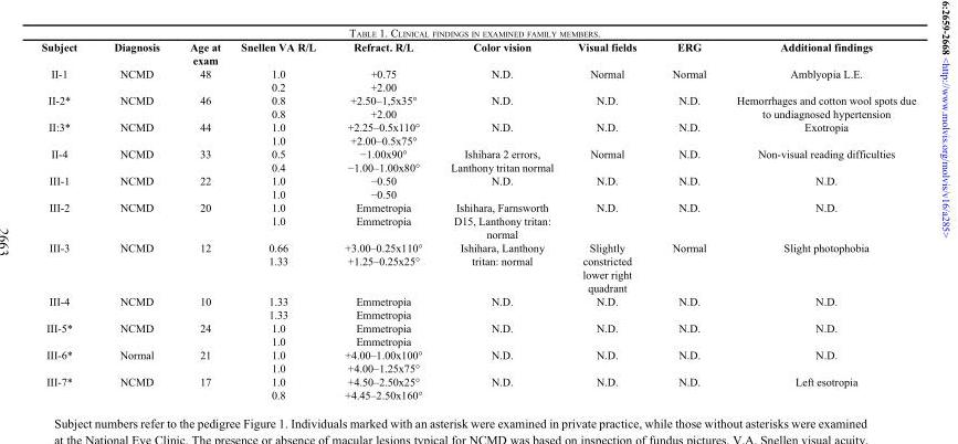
<table><thead><tr><td>Subject</td><td>Diagnosis</td><td>Age at exam</td><td>Snellen VA R/L</td><td>Refract. R/L</td><td>Color vision</td><td>Visual fields</td><td>ERG</td><td>Additional findings</td></tr></thead><tbody><tr><td>II-1</td><td>NCMD</td><td>48</td><td>1.0 0.2</td><td>+0.75 +2.00</td><td>N.D.</td><td>Normal</td><td>Normal</td><td>Amblyopia L.E.</td></tr><tr><td>II-2*</td><td>NCMD</td><td>46</td><td>0.8 0.8</td><td>+2.50–1,5x35° +2.00</td><td>N.D.</td><td>N.D.</td><td>N.D.</td><td>Hemorrhages and cotton wool spots due to undiagnosed hypertension</td></tr><tr><td>II:3*</td><td>NCMD</td><td>44</td><td>1.0 1.0</td><td>+2.25–0.5x110° +2.00–0.5x75°</td><td>N.D.</td><td>N.D.</td><td>N.D.</td><td>Exotropia</td></tr><tr><td>II-4</td><td>NCMD</td><td>33</td><td>0.5 0.4</td><td>−1.00x90° −1.00–1.00x80°</td><td>Ishihara 2 errors, Lanthony tritan normal</td><td>Normal</td><td>N.D.</td><td>Non-visual reading difficulties</td></tr><tr><td>III-1</td><td>NCMD</td><td>22</td><td>1.0 1.0</td><td>−0.50 −0.50</td><td>N.D.</td><td>N.D.</td><td>N.D.</td><td>N.D.</td></tr><tr><td>III-2</td><td>NCMD</td><td>20</td><td>1.0 1.0</td><td>Emmetropia Emmetropia</td><td>Ishihara, Farnsworth D15, Lanthony tritan: normal</td><td>N.D.</td><td>N.D.</td><td>N.D.</td></tr><tr><td>III-3</td><td>NCMD</td><td>12</td><td>0.66 1.33</td><td>+3.00–0.25x110° +1.25–0.25x25°</td><td>Ishihara, Lanthony tritan: normal</td><td>Slightly constricted lower right quadrant</td><td>Normal</td><td>Slight photophobia</td></tr><tr><td>III-4</td><td>NCMD</td><td>10</td><td>1.33 1.33</td><td>Emmetropia Emmetropia</td><td>N.D.</td><td>N.D.</td><td>N.D.</td><td>N.D.</td></tr><tr><td>III-5*</td><td>NCMD</td><td>24</td><td>1.0 1.0</td><td>Emmetropia Emmetropia</td><td>N.D.</td><td>N.D.</td><td>N.D.</td><td>N.D.</td></tr><tr><td>III-6*</td><td>Normal</td><td>21</td><td>1.0 1.0</td><td>+4.00–1.00x100° +4.00–1.25x75°</td><td>N.D.</td><td>N.D.</td><td>N.D.</td><td>N.D.</td></tr><tr><td>III-7*</td><td>NCMD</td><td>17</td><td>1.0 0.8</td><td>+4.50–2.50x25° +4.45–2.50x160°</td><td>N.D.</td><td>N.D.</td><td>N.D.</td><td>Left esotropia</td></tr></tbody></table>